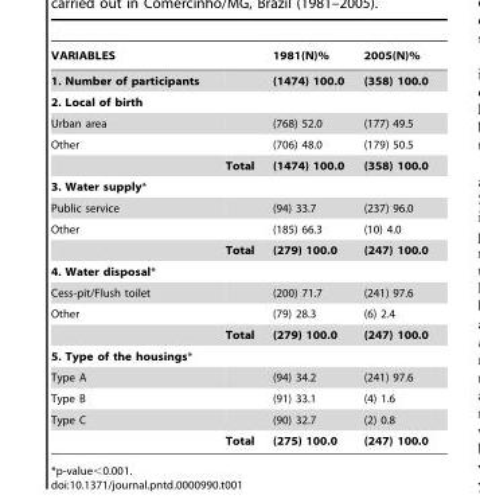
<table><thead><tr><td>VARIABLES</td><td></td><td>1981(N)%</td><td>2005(N)%</td></tr></thead><tbody><tr><td>1. Number of participants</td><td></td><td>(1474) 100.0</td><td>(358) 100.0</td></tr><tr><td colspan="4">2. Local of birth</td></tr><tr><td>Urban area</td><td></td><td>(768) 52.0</td><td>(177) 49.5</td></tr><tr><td rowspan="2">Other</td><td></td><td>(706) 48.0</td><td>(179) 50.5</td></tr><tr><td>Total</td><td>(1474) 100.0</td><td>(358) 100.0</td></tr><tr><td colspan="4">3. Water supply*</td></tr><tr><td>Public service</td><td></td><td>(94) 33.7</td><td>(237) 96.0</td></tr><tr><td rowspan="2">Other</td><td></td><td>(185) 66.3</td><td>(10) 4.0</td></tr><tr><td>Total</td><td>(279) 100.0</td><td>(247) 100.0</td></tr><tr><td colspan="4">4. Water disposal*</td></tr><tr><td>Cess-pit/Flush toilet</td><td></td><td>(200) 71.7</td><td>(241) 97.6</td></tr><tr><td rowspan="2">Other</td><td></td><td>(79) 28.3</td><td>(6) 2.4</td></tr><tr><td>Total</td><td>(279) 100.0</td><td>(247) 100.0</td></tr><tr><td colspan="4">5. Type of the housings*</td></tr><tr><td>Type A</td><td></td><td>(94) 34.2</td><td>(241) 97.6</td></tr><tr><td>Type B</td><td></td><td>(91) 33.1</td><td>(4) 1.6</td></tr><tr><td rowspan="2">Type C</td><td></td><td>(90) 32.7</td><td>(2) 0.8</td></tr><tr><td>Total</td><td>(275) 100.0</td><td>(247) 100.0</td></tr></tbody></table>